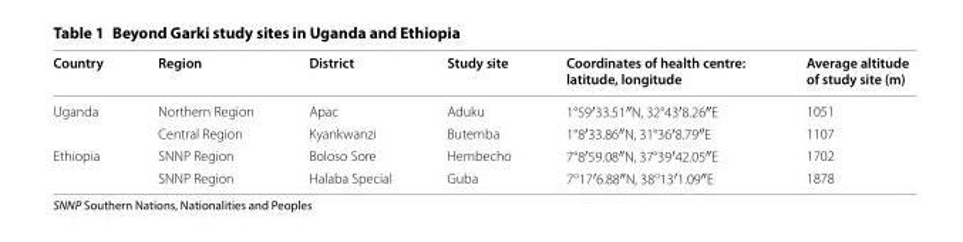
<table><thead><tr><td>Country</td><td>Region</td><td>District</td><td>Study site</td><td>Coordinates of health centre: latitude, longitude</td><td>Average altitude of study site (m)</td></tr></thead><tbody><tr><td rowspan="2">Uganda</td><td>Northern Region</td><td>Apac</td><td>Aduku</td><td>1°59′33.51″N, 32°43′8.26″E</td><td>1051</td></tr><tr><td>Central Region</td><td>Kyankwanzi</td><td>Butemba</td><td>1°8′33.86″N, 31°36′8.79″E</td><td>1107</td></tr><tr><td rowspan="2">Ethiopia</td><td>SNNP Region</td><td>Boloso Sore</td><td>Hembecho</td><td>7°8′59.08″N, 37°39′42.05″E</td><td>1702</td></tr><tr><td>SNNP Region</td><td>Halaba Special</td><td>Guba</td><td>7<sup>o</sup>17′6.88″N, 38<sup>o</sup>13′1.09″E</td><td>1878</td></tr></tbody></table>